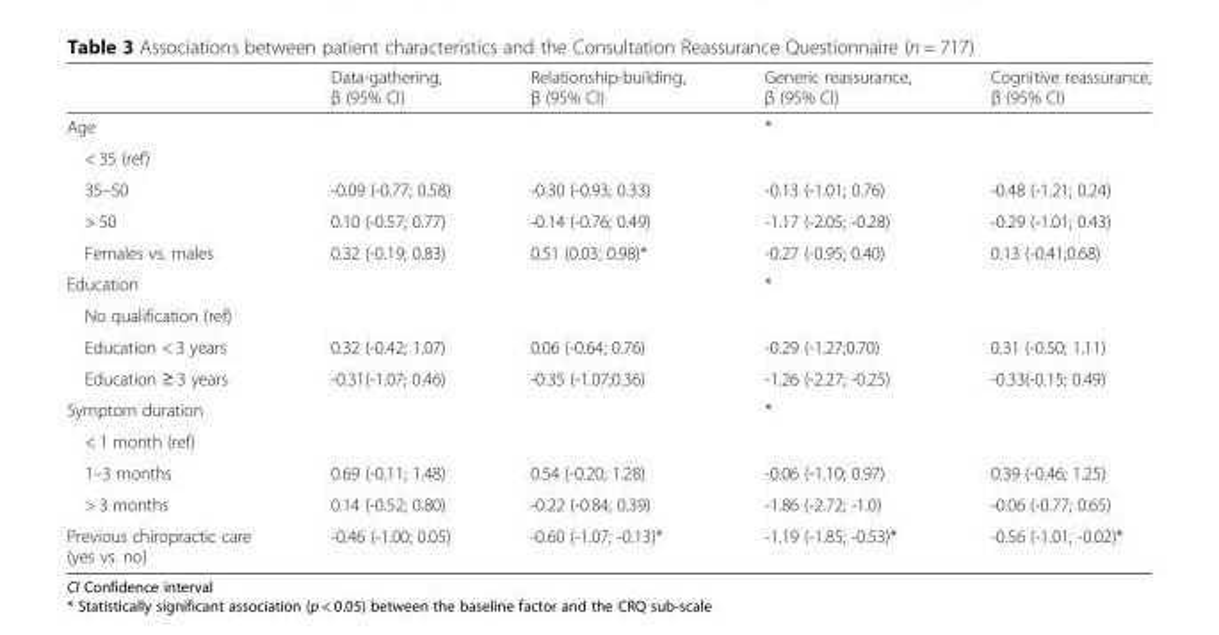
<table><thead><tr><td></td><td>Data-gathering, β (95% CI)</td><td>Relationship-building, β (95% CI)</td><td>Generic reassurance, β (95% CI)</td><td>Cognitive reassurance, β (95% CI)</td></tr></thead><tbody><tr><td>Age</td><td></td><td></td><td>*</td><td></td></tr><tr><td colspan="5">&lt; 35 (ref)</td></tr><tr><td>35–50</td><td>-0.09 (-0.77; 0.58)</td><td>-0.30 (-0.93; 0.33)</td><td>-0.13 (-1.01; 0.76)</td><td>-0.48 (-1.21; 0.24)</td></tr><tr><td>&gt; 50</td><td>0.10 (-0.57; 0.77)</td><td>-0.14 (-0.76; 0.49)</td><td>-1.17 (-2.05; -0.28)</td><td>-0.29 (-1.01; 0.43)</td></tr><tr><td>Females vs. males</td><td>0.32 (-0.19; 0.83)</td><td>0.51 (0.03; 0.98)*</td><td>-0.27 (-0.95; 0.40)</td><td>0.13 (-0.41;0.68)</td></tr><tr><td>Education</td><td></td><td></td><td>*</td><td></td></tr><tr><td colspan="5">No qualification (ref)</td></tr><tr><td>Education &lt; 3 years</td><td>0.32 (-0.42; 1.07)</td><td>0.06 (-0.64; 0.76)</td><td>-0.29 (-1.27;0.70)</td><td>0.31 (-0.50; 1.11)</td></tr><tr><td>Education ≥ 3 years</td><td>-0.31(-1.07; 0.46)</td><td>-0.35 (-1.07;0.36)</td><td>-1.26 (-2.27; -0.25)</td><td>-0.33(-0.15; 0.49)</td></tr><tr><td>Symptom duration</td><td></td><td></td><td>*</td><td></td></tr><tr><td colspan="5">&lt; 1 month (ref)</td></tr><tr><td>1–3 months</td><td>0.69 (-0.11; 1.48)</td><td>0.54 (-0.20; 1.28)</td><td>-0.06 (-1.10; 0.97)</td><td>0.39 (-0.46; 1.25)</td></tr><tr><td>&gt; 3 months</td><td>0.14 (-0.52; 0.80)</td><td>-0.22 (-0.84; 0.39)</td><td>-1.86 (-2.72; -1.0)</td><td>-0.06 (-0.77; 0.65)</td></tr><tr><td>Previous chiropractic care (yes vs. no)</td><td>-0.46 (-1.00; 0.05)</td><td>-0.60 (-1.07; -0.13)*</td><td>-1.19 (-1.85; -0.53)*</td><td>-0.56 (-1.01; -0.02)*</td></tr></tbody></table>